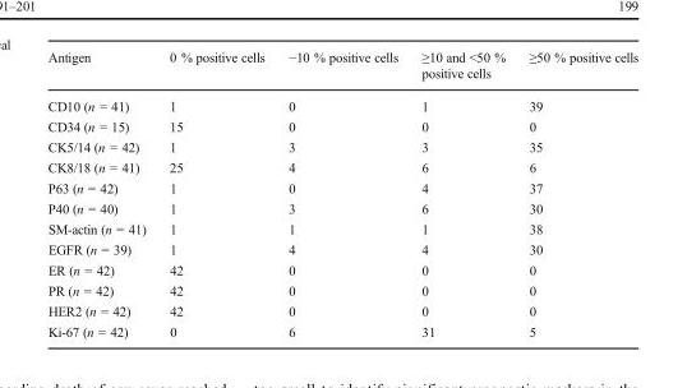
<table><thead><tr><td>Antigen</td><td>0 % positive cells</td><td>−10 % positive cells</td><td>≥10 and &lt;50 % positive cells</td><td>≥50 % positive cells</td></tr></thead><tbody><tr><td>CD10 (n = 41)</td><td>1</td><td>0</td><td>1</td><td>39</td></tr><tr><td>CD34 (n = 15)</td><td>15</td><td>0</td><td>0</td><td>0</td></tr><tr><td>CK5/14 (n = 42)</td><td>1</td><td>3</td><td>3</td><td>35</td></tr><tr><td>CK8/18 (n = 41)</td><td>25</td><td>4</td><td>6</td><td>6</td></tr><tr><td>P63 (n = 42)</td><td>1</td><td>0</td><td>4</td><td>37</td></tr><tr><td>P40 (n = 40)</td><td>1</td><td>3</td><td>6</td><td>30</td></tr><tr><td>SM-actin (n = 41)</td><td>1</td><td>1</td><td>1</td><td>38</td></tr><tr><td>EGFR (n = 39)</td><td>1</td><td>4</td><td>4</td><td>30</td></tr><tr><td>ER (n = 42)</td><td>42</td><td>0</td><td>0</td><td>0</td></tr><tr><td>PR (n = 42)</td><td>42</td><td>0</td><td>0</td><td>0</td></tr><tr><td>HER2 (n = 42)</td><td>42</td><td>0</td><td>0</td><td>0</td></tr><tr><td>Ki-67 (n = 42)</td><td>0</td><td>6</td><td>31</td><td>5</td></tr></tbody></table>